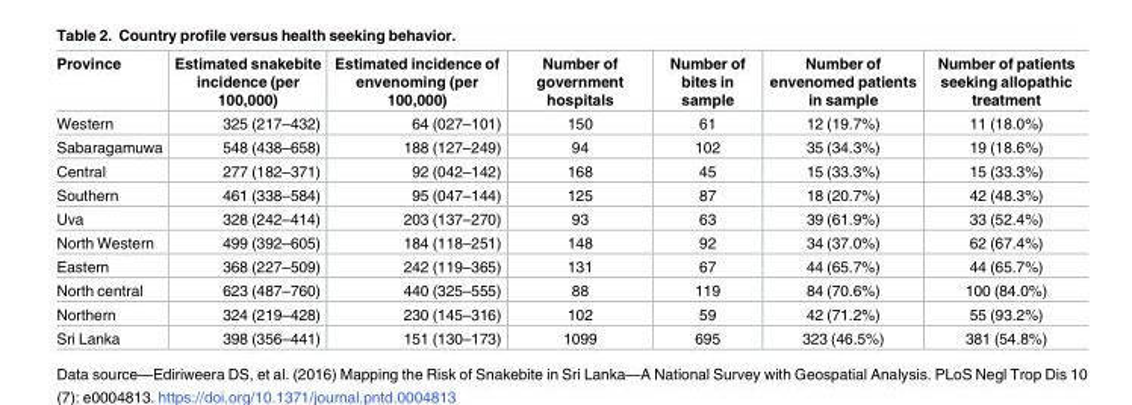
<table><thead><tr><td>Province</td><td>Estimated snakebite incidence (per 100,000)</td><td>Estimated incidence of envenoming (per 100,000)</td><td>Number of government hospitals</td><td>Number of bites in sample</td><td>Number of envenomed patients in sample</td><td>Number of patients seeking allopathic treatment</td></tr></thead><tbody><tr><td>Western</td><td>325 (217–432)</td><td>64 (027–101)</td><td>150</td><td>61</td><td>12 (19.7%)</td><td>11 (18.0%)</td></tr><tr><td>Sabaragamuwa</td><td>548 (438–658)</td><td>188 (127–249)</td><td>94</td><td>102</td><td>35 (34.3%)</td><td>19 (18.6%)</td></tr><tr><td>Central</td><td>277 (182–371)</td><td>92 (042–142)</td><td>168</td><td>45</td><td>15 (33.3%)</td><td>15 (33.3%)</td></tr><tr><td>Southern</td><td>461 (338–584)</td><td>95 (047–144)</td><td>125</td><td>87</td><td>18 (20.7%)</td><td>42 (48.3%)</td></tr><tr><td>Uva</td><td>328 (242–414)</td><td>203 (137–270)</td><td>93</td><td>63</td><td>39 (61.9%)</td><td>33 (52.4%)</td></tr><tr><td>North Western</td><td>499 (392–605)</td><td>184 (118–251)</td><td>148</td><td>92</td><td>34 (37.0%)</td><td>62 (67.4%)</td></tr><tr><td>Eastern</td><td>368 (227–509)</td><td>242 (119–365)</td><td>131</td><td>67</td><td>44 (65.7%)</td><td>44 (65.7%)</td></tr><tr><td>North central</td><td>623 (487–760)</td><td>440 (325–555)</td><td>88</td><td>119</td><td>84 (70.6%)</td><td>100 (84.0%)</td></tr><tr><td>Northern</td><td>324 (219–428)</td><td>230 (145–316)</td><td>102</td><td>59</td><td>42 (71.2%)</td><td>55 (93.2%)</td></tr><tr><td>Sri Lanka</td><td>398 (356–441)</td><td>151 (130–173)</td><td>1099</td><td>695</td><td>323 (46.5%)</td><td>381 (54.8%)</td></tr></tbody></table>